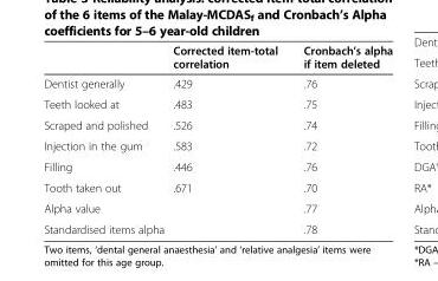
<table><thead><tr><td></td><td>Corrected item-total correlation</td><td>Cronbach’s alpha if item deleted</td></tr></thead><tbody><tr><td>Dentist generally</td><td>.429</td><td>.76</td></tr><tr><td>Teeth looked at</td><td>.483</td><td>.75</td></tr><tr><td>Scraped and polished</td><td>.526</td><td>.74</td></tr><tr><td>Injection in the gum</td><td>.583</td><td>.72</td></tr><tr><td>Filling</td><td>.446</td><td>.76</td></tr><tr><td>Tooth taken out</td><td>.671</td><td>.70</td></tr><tr><td>Alpha value</td><td></td><td>.77</td></tr><tr><td>Standardised items alpha</td><td></td><td>.78</td></tr></tbody></table>